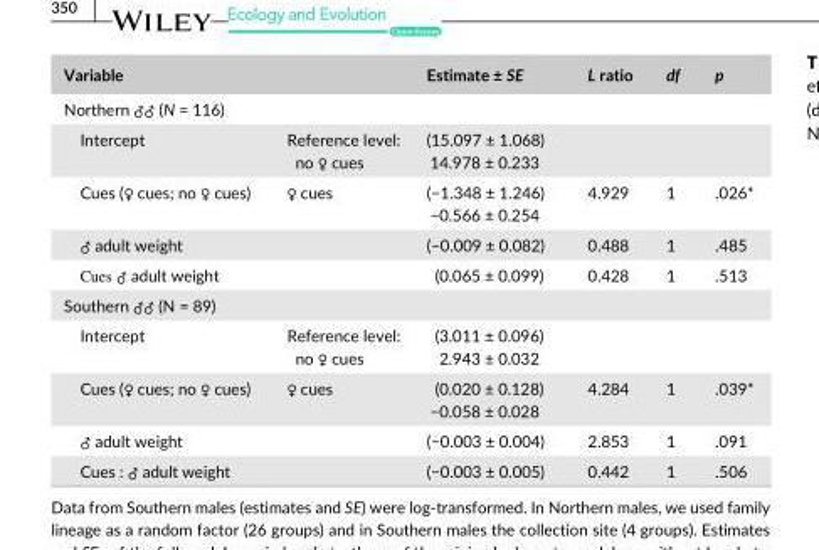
<table><thead><tr><td>Variable</td><td></td><td>Estimate ± SE</td><td>L ratio</td><td>df</td><td>p</td></tr></thead><tbody><tr><td colspan="6">Northern ♂♂ (N = 116)</td></tr><tr><td>Intercept</td><td>Reference level: no ♀ cues</td><td>(15.097 ± 1.068) 14.978 ± 0.233</td><td></td><td></td><td></td></tr><tr><td>Cues (♀ cues; no ♀ cues)</td><td>♀ cues</td><td>(−1.348 ± 1.246) −0.566 ± 0.254</td><td>4.929</td><td>1</td><td>.026*</td></tr><tr><td>♂ adult weight</td><td></td><td>(−0.009 ± 0.082)</td><td>0.488</td><td>1</td><td>.485</td></tr><tr><td>Cues ♂ adult weight</td><td></td><td>(0.065 ± 0.099)</td><td>0.428</td><td>1</td><td>.513</td></tr><tr><td colspan="6">Southern ♂♂ (N = 89)</td></tr><tr><td>Intercept</td><td>Reference level: no ♀ cues</td><td>(3.011 ± 0.096) 2.943 ± 0.032</td><td></td><td></td><td></td></tr><tr><td>Cues (♀ cues; no ♀ cues)</td><td>♀ cues</td><td>(0.020 ± 0.128) −0.058 ± 0.028</td><td>4.284</td><td>1</td><td>.039*</td></tr><tr><td>♂ adult weight</td><td></td><td>(−0.003 ± 0.004)</td><td>2.853</td><td>1</td><td>.091</td></tr><tr><td>Cues : ♂ adult weight</td><td></td><td>(−0.003 ± 0.005)</td><td>0.442</td><td>1</td><td>.506</td></tr></tbody></table>